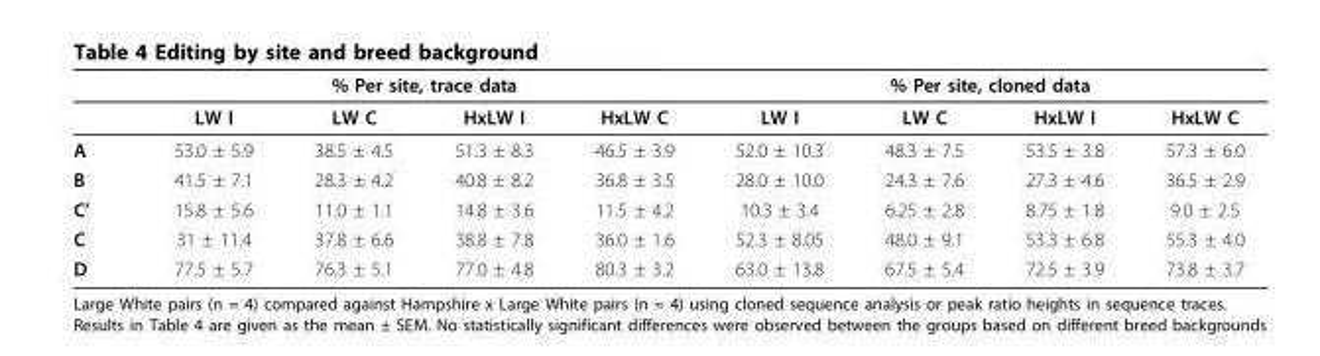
<table><thead><tr><td rowspan="2"></td><td colspan="4">% Per site, trace data</td><td colspan="4">% Per site, cloned data</td></tr><tr><td>LW I</td><td>LW C</td><td>HxLW I</td><td>HxLW C</td><td>LW I</td><td>LW C</td><td>HxLW I</td><td>HxLW C</td></tr></thead><tbody><tr><td>A</td><td>53.0 ± 5.9</td><td>38.5 ± 4.5</td><td>51.3 ± 8.3</td><td>46.5 ± 3.9</td><td>52.0 ± 10.3</td><td>48.3 ± 7.5</td><td>53.5 ± 3.8</td><td>57.3 ± 6.0</td></tr><tr><td>B</td><td>41.5 ± 7.1</td><td>28.3 ± 4.2</td><td>40.8 ± 8.2</td><td>36.8 ± 3.5</td><td>28.0 ± 10.0</td><td>24.3 ± 7.6</td><td>27.3 ± 4.6</td><td>36.5 ± 2.9</td></tr><tr><td>C’</td><td>15.8 ± 5.6</td><td>11.0 ± 1.1</td><td>14.8 ± 3.6</td><td>11.5 ± 4.2</td><td>10.3 ± 3.4</td><td>6.25 ± 2.8</td><td>8.75 ± 1.8</td><td>9.0 ± 2.5</td></tr><tr><td>C</td><td>31 ± 11.4</td><td>37.8 ± 6.6</td><td>38.8 ± 7.8</td><td>36.0 ± 1.6</td><td>52.3 ± 8.05</td><td>48.0 ± 9.1</td><td>53.3 ± 6.8</td><td>55.3 ± 4.0</td></tr><tr><td>D</td><td>77.5 ± 5.7</td><td>76.3 ± 5.1</td><td>77.0 ± 4.8</td><td>80.3 ± 3.2</td><td>63.0 ± 13.8</td><td>67.5 ± 5.4</td><td>72.5 ± 3.9</td><td>73.8 ± 3.7</td></tr></tbody></table>